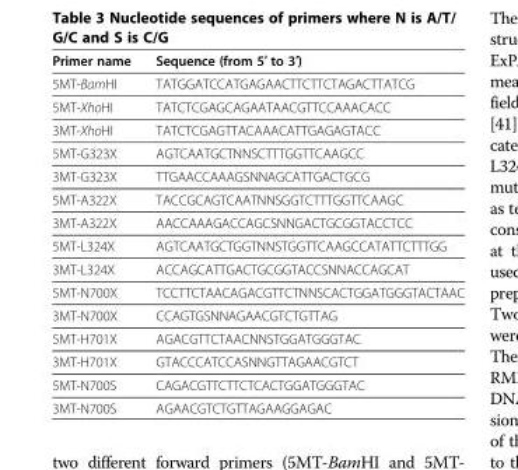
<table><thead><tr><td>Primer name</td><td>Sequence (from 5′ to 3′)</td></tr></thead><tbody><tr><td>5MT-BamHI</td><td>TATGGATCCATGAGAACTTCTTCTAGACTTATCG</td></tr><tr><td>5MT-XhoHI</td><td>TATCTCGAGCAGAATAACGTTCCAAACACC</td></tr><tr><td>3MT-XhoHI</td><td>TATCTCGAGTTACAAACATTGAGAGTACC</td></tr><tr><td>5MT-G323X</td><td>AGTCAATGCTNNSCTTTGGTTCAAGCC</td></tr><tr><td>3MT-G323X</td><td>TTGAACCAAAGSNNAGCATTGACTGCG</td></tr><tr><td>5MT-A322X</td><td>TACCGCAGTCAATNNSGGTCTTTGGTTCAAGC</td></tr><tr><td>3MT-A322X</td><td>AACCAAAGACCAGCSNNGACTGCGGTACCTCC</td></tr><tr><td>5MT-L324X</td><td>AGTCAATGCTGGTNNSTGGTTCAAGCCATATTCTTTGG</td></tr><tr><td>3MT-L324X</td><td>ACCAGCATTGACTGCGGTACCSNNACCAGCAT</td></tr><tr><td>5MT-N700X</td><td>TCCTTCTAACAGACGTTCTNNSCACTGGATGGGTACTAAC</td></tr><tr><td>3MT-N700X</td><td>CCAGTGSNNAGAACGTCTGTTAG</td></tr><tr><td>5MT-H701X</td><td>AGACGTTCTAACNNSTGGATGGGTAC</td></tr><tr><td>3MT-H701X</td><td>GTACCCATCCASNNGTTAGAACGTCT</td></tr><tr><td>5MT-N700S</td><td>CAGACGTTCTTCTCACTGGATGGGTAC</td></tr><tr><td>3MT-N700S</td><td>AGAACGTCTGTTAGAAGGAGAC</td></tr></tbody></table>